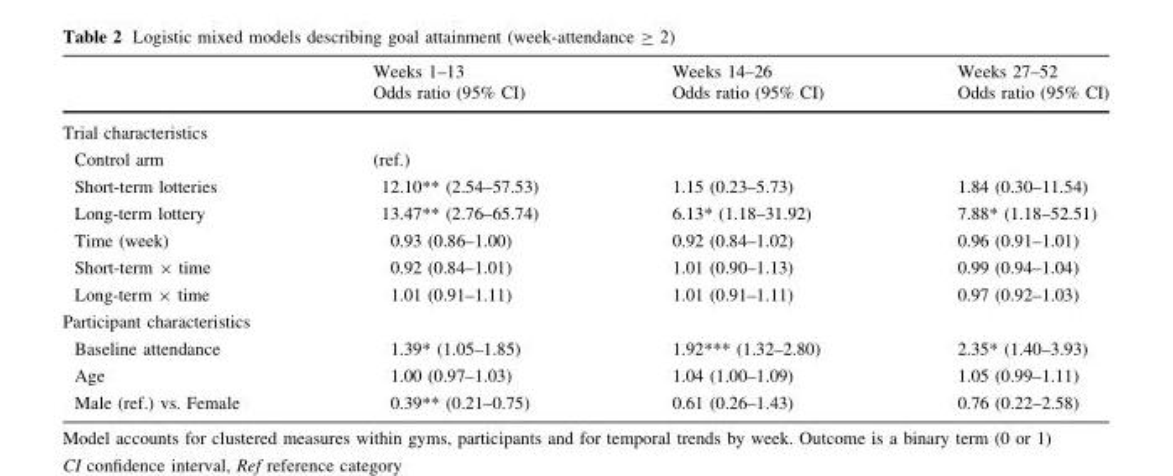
<table><thead><tr><td rowspan="2"></td><td rowspan="2">Weeks 1–13 Odds ratio (95% CI)</td><td rowspan="2">Weeks 14–26 Odds ratio (95% CI)</td><td rowspan="2">Weeks 27–52 Odds ratio (95% CI)</td></tr><tr></tr></thead><tbody><tr><td colspan="4">Trial characteristics</td></tr><tr><td>Control arm</td><td>(ref.)</td><td></td><td></td></tr><tr><td>Short-term lotteries</td><td>12.10** (2.54–57.53)</td><td>1.15 (0.23–5.73)</td><td>1.84 (0.30–11.54)</td></tr><tr><td>Long-term lottery</td><td>13.47** (2.76–65.74)</td><td>6.13* (1.18–31.92)</td><td>7.88* (1.18–52.51)</td></tr><tr><td>Time (week)</td><td>0.93 (0.86–1.00)</td><td>0.92 (0.84–1.02)</td><td>0.96 (0.91–1.01)</td></tr><tr><td>Short-term × time</td><td>0.92 (0.84–1.01)</td><td>1.01 (0.90–1.13)</td><td>0.99 (0.94–1.04)</td></tr><tr><td>Long-term × time</td><td>1.01 (0.91–1.11)</td><td>1.01 (0.91–1.11)</td><td>0.97 (0.92–1.03)</td></tr><tr><td colspan="4">Participant characteristics</td></tr><tr><td>Baseline attendance</td><td>1.39* (1.05–1.85)</td><td>1.92*** (1.32–2.80)</td><td>2.35* (1.40–3.93)</td></tr><tr><td>Age</td><td>1.00 (0.97–1.03)</td><td>1.04 (1.00–1.09)</td><td>1.05 (0.99–1.11)</td></tr><tr><td>Male (ref.) vs. Female</td><td>0.39** (0.21–0.75)</td><td>0.61 (0.26–1.43)</td><td>0.76 (0.22–2.58)</td></tr></tbody></table>